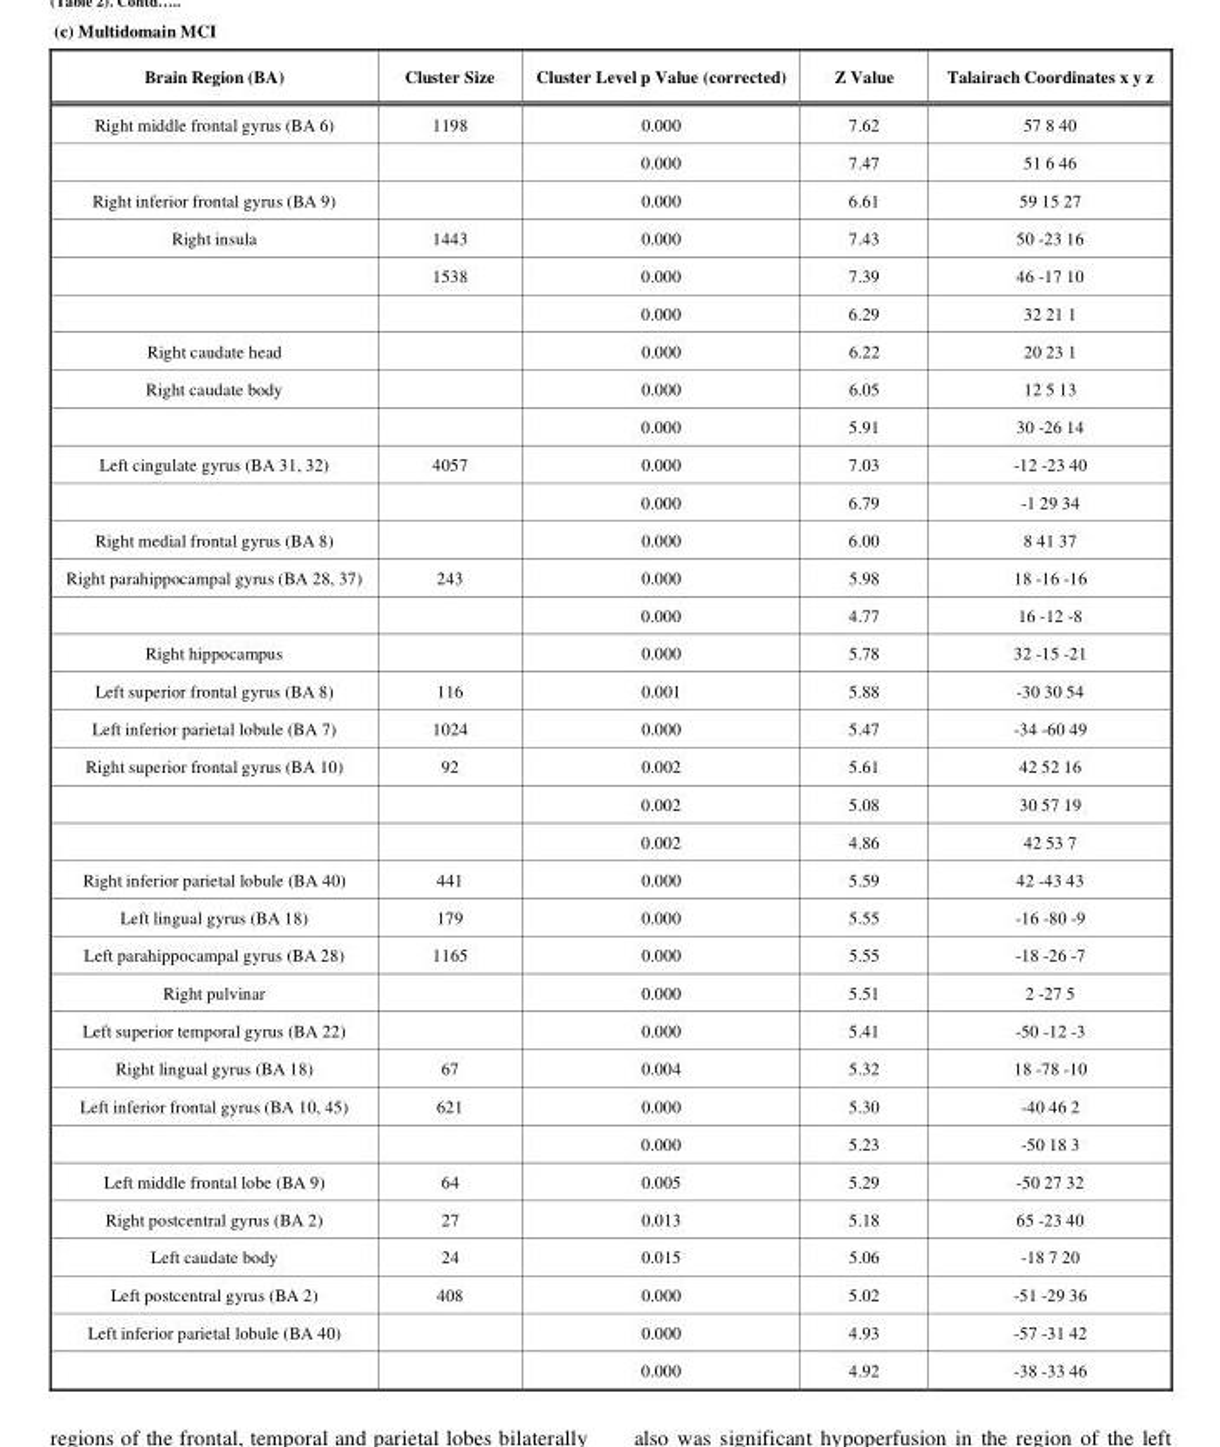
<table><thead><tr><td>Brain Region (BA)</td><td>Cluster Size</td><td>Cluster Level p Value (corrected)</td><td>Z Value</td><td>Talairach Coordinates x y z</td></tr></thead><tbody><tr><td rowspan="2">Right middle frontal gyrus (BA 6)</td><td>1198</td><td>0.000</td><td>7.62</td><td>57 8 40</td></tr><tr><td></td><td>0.000</td><td>7.47</td><td>51 6 46</td></tr><tr><td>Right inferior frontal gyrus (BA 9)</td><td></td><td>0.000</td><td>6.61</td><td>59 15 27</td></tr><tr><td rowspan="3">Right insula</td><td>1443</td><td>0.000</td><td>7.43</td><td>50 -23 16</td></tr><tr><td>1538</td><td>0.000</td><td>7.39</td><td>46 -17 10</td></tr><tr><td></td><td>0.000</td><td>6.29</td><td>32 21 1</td></tr><tr><td>Right caudate head</td><td></td><td>0.000</td><td>6.22</td><td>20 23 1</td></tr><tr><td rowspan="2">Right caudate body</td><td></td><td>0.000</td><td>6.05</td><td>12 5 13</td></tr><tr><td></td><td>0.000</td><td>5.91</td><td>30 -26 14</td></tr><tr><td rowspan="2">Left cingulate gyrus (BA 31, 32)</td><td>4057</td><td>0.000</td><td>7.03</td><td>-12 -23 40</td></tr><tr><td></td><td>0.000</td><td>6.79</td><td>-1 29 34</td></tr><tr><td>Right medial frontal gyrus (BA 8)</td><td></td><td>0.000</td><td>6.00</td><td>8 41 37</td></tr><tr><td rowspan="2">Right parahippocampal gyrus (BA 28, 37)</td><td>243</td><td>0.000</td><td>5.98</td><td>18 -16 -16</td></tr><tr><td></td><td>0.000</td><td>4.77</td><td>16 -12 -8</td></tr><tr><td>Right hippocampus</td><td></td><td>0.000</td><td>5.78</td><td>32 -15 -21</td></tr><tr><td>Left superior frontal gyrus (BA 8)</td><td>116</td><td>0.001</td><td>5.88</td><td>-30 30 54</td></tr><tr><td>Left inferior parietal lobule (BA 7)</td><td>1024</td><td>0.000</td><td>5.47</td><td>-34 -60 49</td></tr><tr><td rowspan="3">Right superior frontal gyrus (BA 10)</td><td>92</td><td>0.002</td><td>5.61</td><td>42 52 16</td></tr><tr><td></td><td>0.002</td><td>5.08</td><td>30 57 19</td></tr><tr><td></td><td>0.002</td><td>4.86</td><td>42 53 7</td></tr><tr><td>Right inferior parietal lobule (BA 40)</td><td>441</td><td>0.000</td><td>5.59</td><td>42 -43 43</td></tr><tr><td>Left lingual gyrus (BA 18)</td><td>179</td><td>0.000</td><td>5.55</td><td>-16 -80 -9</td></tr><tr><td>Left parahippocampal gyrus (BA 28)</td><td>1165</td><td>0.000</td><td>5.55</td><td>-18 -26 -7</td></tr><tr><td>Right pulvinar</td><td></td><td>0.000</td><td>5.51</td><td>2 -27 5</td></tr><tr><td>Left superior temporal gyrus (BA 22)</td><td></td><td>0.000</td><td>5.41</td><td>-50 -12 -3</td></tr><tr><td>Right lingual gyrus (BA 18)</td><td>67</td><td>0.004</td><td>5.32</td><td>18 -78 -10</td></tr><tr><td rowspan="2">Left inferior frontal gyrus (BA 10, 45)</td><td>621</td><td>0.000</td><td>5.30</td><td>-40 46 2</td></tr><tr><td></td><td>0.000</td><td>5.23</td><td>-50 18 3</td></tr><tr><td>Left middle frontal lobe (BA 9)</td><td>64</td><td>0.005</td><td>5.29</td><td>-50 27 32</td></tr><tr><td>Right postcentral gyrus (BA 2)</td><td>27</td><td>0.013</td><td>5.18</td><td>65 -23 40</td></tr><tr><td>Left caudate body</td><td>24</td><td>0.015</td><td>5.06</td><td>-18 7 20</td></tr><tr><td>Left postcentral gyrus (BA 2)</td><td>408</td><td>0.000</td><td>5.02</td><td>-51 -29 36</td></tr><tr><td rowspan="2">Left inferior parietal lobule (BA 40)</td><td></td><td>0.000</td><td>4.93</td><td>-57 -31 42</td></tr><tr><td></td><td>0.000</td><td>4.92</td><td>-38 -33 46</td></tr></tbody></table>